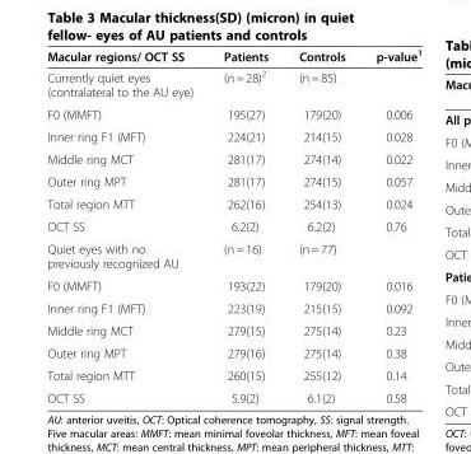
<table><thead><tr><td>Macular regions/ OCT SS</td><td>Patients</td><td>Controls</td><td>p-value<sup>1</sup></td></tr></thead><tbody><tr><td>Currently quiet eyes (contralateral to the AU eye)</td><td>(n = 28)<sup>2</sup></td><td>(n = 85)</td><td></td></tr><tr><td>F0 (MMFT)</td><td>195(27)</td><td>179(20)</td><td>0.006</td></tr><tr><td>Inner ring F1 (MFT)</td><td>224(21)</td><td>214(15)</td><td>0.028</td></tr><tr><td>Middle ring MCT</td><td>281(17)</td><td>274(14)</td><td>0.022</td></tr><tr><td>Outer ring MPT</td><td>281(17)</td><td>274(15)</td><td>0.057</td></tr><tr><td>Total region MTT</td><td>262(16)</td><td>254(13)</td><td>0.024</td></tr><tr><td>OCT SS</td><td>6.2(2)</td><td>6.2(2)</td><td>0.76</td></tr><tr><td>Quiet eyes with no previously recognized AU</td><td>(n = 16)</td><td>(n = 77)</td><td></td></tr><tr><td>F0 (MMFT)</td><td>193(22)</td><td>179(20)</td><td>0.016</td></tr><tr><td>Inner ring F1 (MFT)</td><td>223(19)</td><td>215(15)</td><td>0.092</td></tr><tr><td>Middle ring MCT</td><td>279(15)</td><td>275(14)</td><td>0.23</td></tr><tr><td>Outer ring MPT</td><td>279(16)</td><td>275(14)</td><td>0.38</td></tr><tr><td>Total region MTT</td><td>260(15)</td><td>255(12)</td><td>0.14</td></tr><tr><td>OCT SS</td><td>5.9(2)</td><td>6.1(2)</td><td>0.58</td></tr></tbody></table>